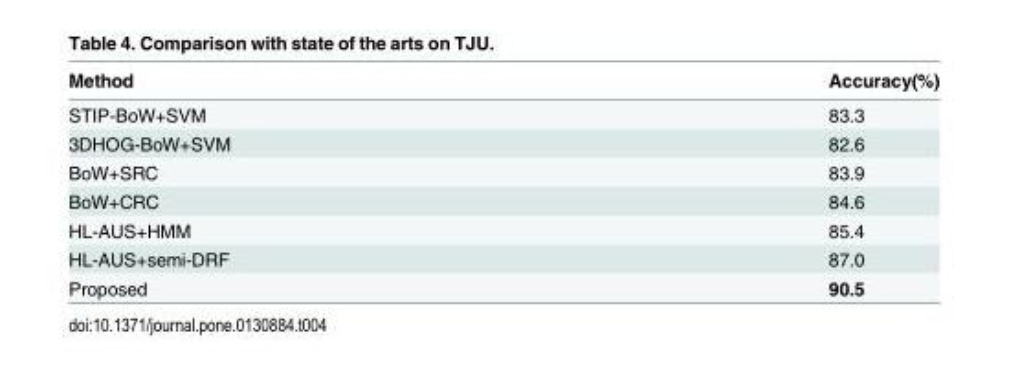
<table><thead><tr><td>Method</td><td>Accuracy(%)</td></tr></thead><tbody><tr><td>STIP-BoW+SVM</td><td>83.3</td></tr><tr><td>3DHOG-BoW+SVM</td><td>82.6</td></tr><tr><td>BoW+SRC</td><td>83.9</td></tr><tr><td>BoW+CRC</td><td>84.6</td></tr><tr><td>HL-AUS+HMM</td><td>85.4</td></tr><tr><td>HL-AUS+semi-DRF</td><td>87.0</td></tr><tr><td>Proposed</td><td>90.5</td></tr></tbody></table>